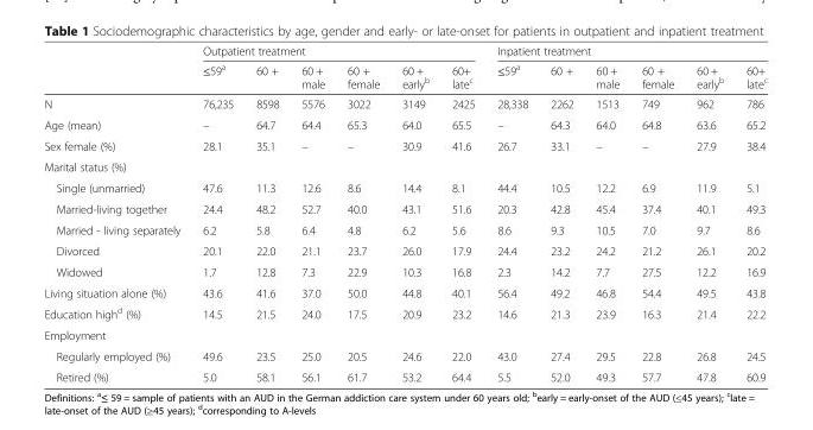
<table><thead><tr><td rowspan="2"></td><td colspan="6">Outpatient treatment</td><td colspan="6">Inpatient treatment</td></tr><tr><td>≤59<sup>a</sup></td><td>60 +</td><td>60 + male</td><td>60 + female</td><td>60 + early<sup>b</sup></td><td>60+ late<sup>c</sup></td><td>≤59<sup>a</sup></td><td>60 +</td><td>60 + male</td><td>60 + female</td><td>60 + early<sup>b</sup></td><td>60+ late<sup>c</sup></td></tr></thead><tbody><tr><td>N</td><td>76,235</td><td>8598</td><td>5576</td><td>3022</td><td>3149</td><td>2425</td><td>28,338</td><td>2262</td><td>1513</td><td>749</td><td>962</td><td>786</td></tr><tr><td>Age (mean)</td><td>–</td><td>64.7</td><td>64.4</td><td>65.3</td><td>64.0</td><td>65.5</td><td>–</td><td>64.3</td><td>64.0</td><td>64.8</td><td>63.6</td><td>65.2</td></tr><tr><td>Sex female (%)</td><td>28.1</td><td>35.1</td><td>–</td><td>–</td><td>30.9</td><td>41.6</td><td>26.7</td><td>33.1</td><td>–</td><td>–</td><td>27.9</td><td>38.4</td></tr><tr><td colspan="13">Marital status (%)</td></tr><tr><td>Single (unmarried)</td><td>47.6</td><td>11.3</td><td>12.6</td><td>8.6</td><td>14.4</td><td>8.1</td><td>44.4</td><td>10.5</td><td>12.2</td><td>6.9</td><td>11.9</td><td>5.1</td></tr><tr><td>Married-living together</td><td>24.4</td><td>48.2</td><td>52.7</td><td>40.0</td><td>43.1</td><td>51.6</td><td>20.3</td><td>42.8</td><td>45.4</td><td>37.4</td><td>40.1</td><td>49.3</td></tr><tr><td>Married - living separately</td><td>6.2</td><td>5.8</td><td>6.4</td><td>4.8</td><td>6.2</td><td>5.6</td><td>8.6</td><td>9.3</td><td>10.5</td><td>7.0</td><td>9.7</td><td>8.6</td></tr><tr><td>Divorced</td><td>20.1</td><td>22.0</td><td>21.1</td><td>23.7</td><td>26.0</td><td>17.9</td><td>24.4</td><td>23.2</td><td>24.2</td><td>21.2</td><td>26.1</td><td>20.2</td></tr><tr><td>Widowed</td><td>1.7</td><td>12.8</td><td>7.3</td><td>22.9</td><td>10.3</td><td>16.8</td><td>2.3</td><td>14.2</td><td>7.7</td><td>27.5</td><td>12.2</td><td>16.9</td></tr><tr><td>Living situation alone (%)</td><td>43.6</td><td>41.6</td><td>37.0</td><td>50.0</td><td>44.8</td><td>40.1</td><td>56.4</td><td>49.2</td><td>46.8</td><td>54.4</td><td>49.5</td><td>43.8</td></tr><tr><td>Education high<sup>d</sup> (%)</td><td>14.5</td><td>21.5</td><td>24.0</td><td>17.5</td><td>20.9</td><td>23.2</td><td>14.6</td><td>21.3</td><td>23.9</td><td>16.3</td><td>21.4</td><td>22.2</td></tr><tr><td colspan="13">Employment</td></tr><tr><td>Regularly employed (%)</td><td>49.6</td><td>23.5</td><td>25.0</td><td>20.5</td><td>24.6</td><td>22.0</td><td>43.0</td><td>27.4</td><td>29.5</td><td>22.8</td><td>26.8</td><td>24.5</td></tr><tr><td>Retired (%)</td><td>5.0</td><td>58.1</td><td>56.1</td><td>61.7</td><td>53.2</td><td>64.4</td><td>5.5</td><td>52.0</td><td>49.3</td><td>57.7</td><td>47.8</td><td>60.9</td></tr></tbody></table>